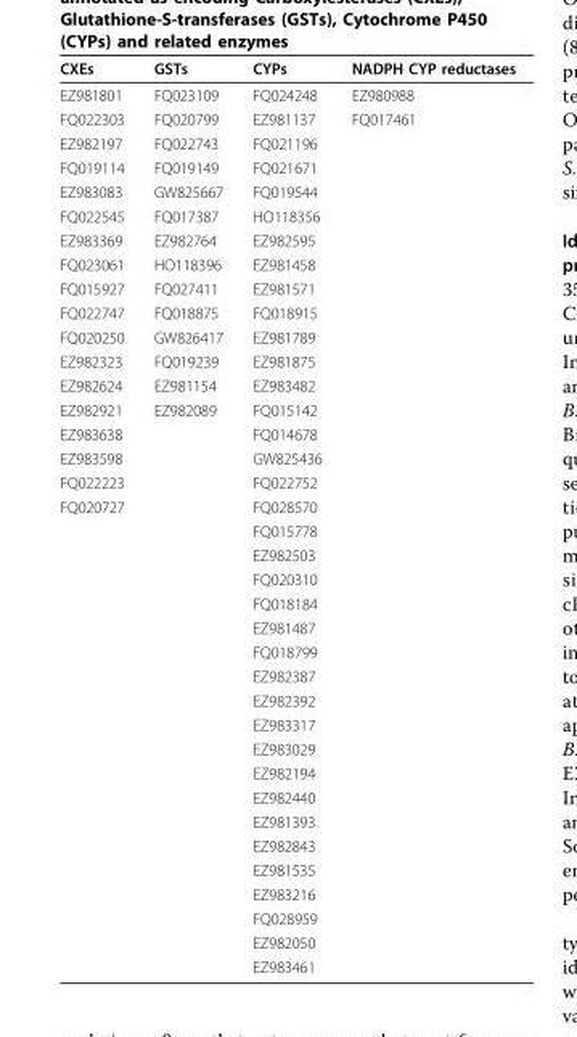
<table><thead><tr><td>CXEs</td><td>GSTs</td><td>CYPs</td><td>NADPH CYP reductases</td></tr></thead><tbody><tr><td>EZ981801</td><td>FQ023109</td><td>FQ024248</td><td>EZ980988</td></tr><tr><td>FQ022303</td><td>FQ020799</td><td>EZ981137</td><td>FQ017461</td></tr><tr><td>EZ982197</td><td>FQ022743</td><td>FQ021196</td><td></td></tr><tr><td>FQ019114</td><td>FQ019149</td><td>FQ021671</td><td></td></tr><tr><td>EZ983083</td><td>GW825667</td><td>FQ019544</td><td></td></tr><tr><td>FQ022545</td><td>FQ017387</td><td>HO118356</td><td></td></tr><tr><td>EZ983369</td><td>EZ982764</td><td>EZ982595</td><td></td></tr><tr><td>FQ023061</td><td>HO118396</td><td>EZ981458</td><td></td></tr><tr><td>FQ015927</td><td>FQ027411</td><td>EZ981571</td><td></td></tr><tr><td>FQ022747</td><td>FQ018875</td><td>FQ018915</td><td></td></tr><tr><td>FQ020250</td><td>GW826417</td><td>EZ981789</td><td></td></tr><tr><td>EZ982323</td><td>FQ019239</td><td>EZ981875</td><td></td></tr><tr><td>EZ982624</td><td>EZ981154</td><td>EZ983482</td><td></td></tr><tr><td>EZ982921</td><td>EZ982089</td><td>FQ015142</td><td></td></tr><tr><td>EZ983638</td><td></td><td>FQ014678</td><td></td></tr><tr><td>EZ983598</td><td></td><td>GW825436</td><td></td></tr><tr><td>FQ022223</td><td></td><td>FQ022752</td><td></td></tr><tr><td rowspan="20">FQ020727</td><td></td><td>FQ028570</td><td></td></tr><tr><td></td><td>FQ015778</td><td></td></tr><tr><td></td><td>EZ982503</td><td></td></tr><tr><td></td><td>FQ020310</td><td></td></tr><tr><td></td><td>FQ018184</td><td></td></tr><tr><td></td><td>EZ981487</td><td></td></tr><tr><td></td><td>FQ018799</td><td></td></tr><tr><td></td><td>EZ982387</td><td></td></tr><tr><td></td><td>EZ982392</td><td></td></tr><tr><td></td><td>EZ983317</td><td></td></tr><tr><td></td><td>EZ983029</td><td></td></tr><tr><td></td><td>EZ982194</td><td></td></tr><tr><td></td><td>EZ982440</td><td></td></tr><tr><td></td><td>EZ981393</td><td></td></tr><tr><td></td><td>EZ982843</td><td></td></tr><tr><td></td><td>EZ981535</td><td></td></tr><tr><td></td><td>EZ983216</td><td></td></tr><tr><td></td><td>FQ028959</td><td></td></tr><tr><td></td><td>EZ982050</td><td></td></tr><tr><td></td><td>EZ983461</td><td></td></tr></tbody></table>